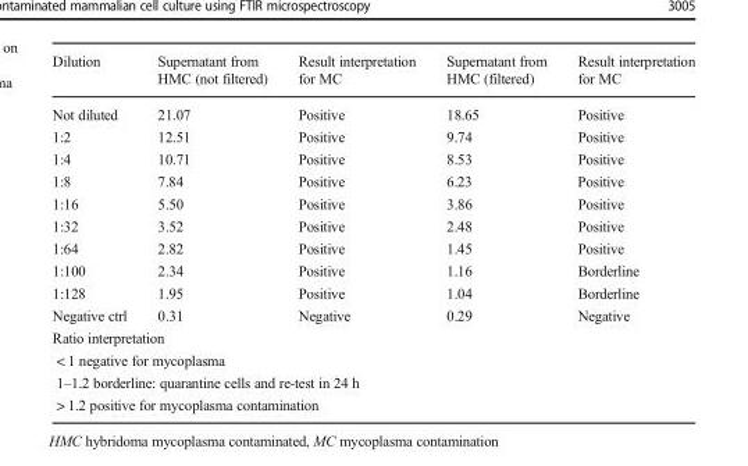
<table><thead><tr><td>Dilution</td><td>Supernatant from HMC (not filtered)</td><td>Result interpretation for MC</td><td>Supernatant from HMC (filtered)</td><td>Result interpretation for MC</td></tr></thead><tbody><tr><td>Not diluted</td><td>21.07</td><td>Positive</td><td>18.65</td><td>Positive</td></tr><tr><td>1:2</td><td>12.51</td><td>Positive</td><td>9.74</td><td>Positive</td></tr><tr><td>1:4</td><td>10.71</td><td>Positive</td><td>8.53</td><td>Positive</td></tr><tr><td>1:8</td><td>7.84</td><td>Positive</td><td>6.23</td><td>Positive</td></tr><tr><td>1:16</td><td>5.50</td><td>Positive</td><td>3.86</td><td>Positive</td></tr><tr><td>1:32</td><td>3.52</td><td>Positive</td><td>2.48</td><td>Positive</td></tr><tr><td>1:64</td><td>2.82</td><td>Positive</td><td>1.45</td><td>Positive</td></tr><tr><td>1:100</td><td>2.34</td><td>Positive</td><td>1.16</td><td>Borderline</td></tr><tr><td>1:128</td><td>1.95</td><td>Positive</td><td>1.04</td><td>Borderline</td></tr><tr><td>Negative ctrl</td><td>0.31</td><td>Negative</td><td>0.29</td><td>Negative</td></tr><tr><td colspan="5">Ratio interpretation</td></tr><tr><td colspan="5">&lt; 1 negative for mycoplasma</td></tr><tr><td colspan="5">1–1.2 borderline: quarantine cells and re-test in 24 h</td></tr><tr><td colspan="5">&gt; 1.2 positive for mycoplasma contamination</td></tr></tbody></table>